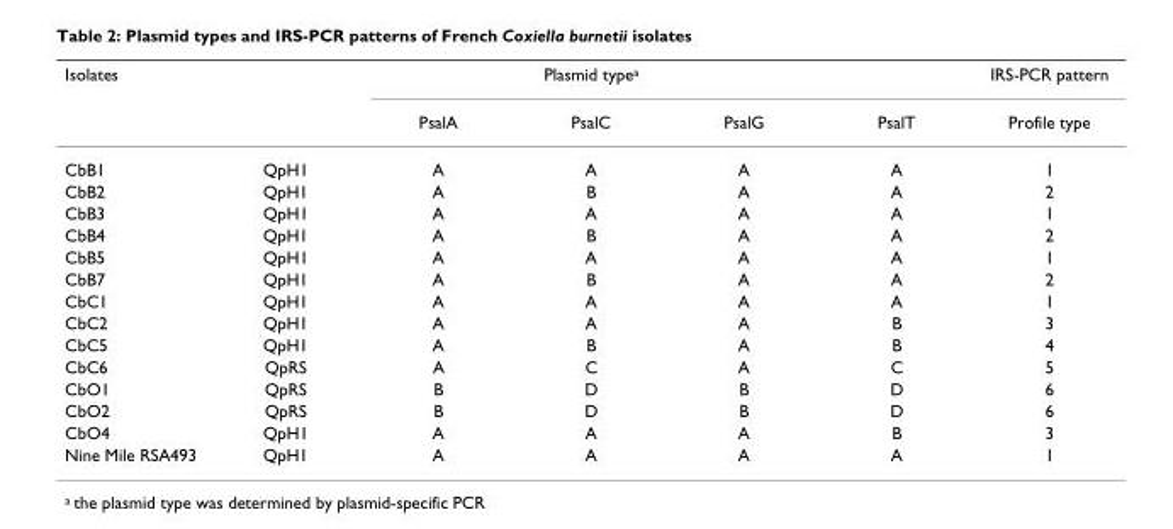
<table><thead><tr><td rowspan="2">Isolates</td><td colspan="5">Plasmid typea</td><td rowspan="2">IRS-PCR pattern Profile type</td></tr><tr><td></td><td>PsalA</td><td>PsalC</td><td>PsalG</td><td>PsalT</td></tr></thead><tbody><tr><td>CbB1</td><td>QpH1</td><td>A</td><td>A</td><td>A</td><td>A</td><td>1</td></tr><tr><td>CbB2</td><td>QpH1</td><td>A</td><td>B</td><td>A</td><td>A</td><td>2</td></tr><tr><td>CbB3</td><td>QpH1</td><td>A</td><td>A</td><td>A</td><td>A</td><td>1</td></tr><tr><td>CbB4</td><td>QpH1</td><td>A</td><td>B</td><td>A</td><td>A</td><td>2</td></tr><tr><td>CbB5</td><td>QpH1</td><td>A</td><td>A</td><td>A</td><td>A</td><td>1</td></tr><tr><td>CbB7</td><td>QpH1</td><td>A</td><td>B</td><td>A</td><td>A</td><td>2</td></tr><tr><td>CbC1</td><td>QpH1</td><td>A</td><td>A</td><td>A</td><td>A</td><td>1</td></tr><tr><td>CbC2</td><td>QpH1</td><td>A</td><td>A</td><td>A</td><td>B</td><td>3</td></tr><tr><td>CbC5</td><td>QpH1</td><td>A</td><td>B</td><td>A</td><td>B</td><td>4</td></tr><tr><td>CbC6</td><td>QpRS</td><td>A</td><td>C</td><td>A</td><td>C</td><td>5</td></tr><tr><td>CbO1</td><td>QpRS</td><td>B</td><td>D</td><td>B</td><td>D</td><td>6</td></tr><tr><td>CbO2</td><td>QpRS</td><td>B</td><td>D</td><td>B</td><td>D</td><td>6</td></tr><tr><td>CbO4</td><td>QpH1</td><td>A</td><td>A</td><td>A</td><td>B</td><td>3</td></tr><tr><td>Nine Mile RSA493</td><td>QpH1</td><td>A</td><td>A</td><td>A</td><td>A</td><td>1</td></tr></tbody></table>